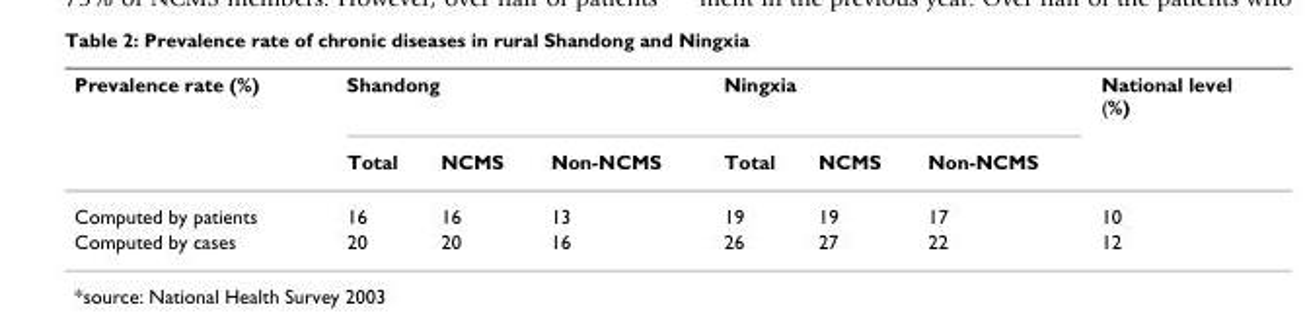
<table><thead><tr><td rowspan="2">Prevalence rate (%)</td><td colspan="3">Shandong</td><td colspan="3">Ningxia</td><td rowspan="2">National level (%)</td></tr><tr><td>Total</td><td>NCMS</td><td>Non-NCMS</td><td>Total</td><td>NCMS</td><td>Non-NCMS</td></tr></thead><tbody><tr><td>Computed by patients</td><td>16</td><td>16</td><td>13</td><td>19</td><td>19</td><td>17</td><td>10</td></tr><tr><td>Computed by cases</td><td>20</td><td>20</td><td>16</td><td>26</td><td>27</td><td>22</td><td>12</td></tr></tbody></table>